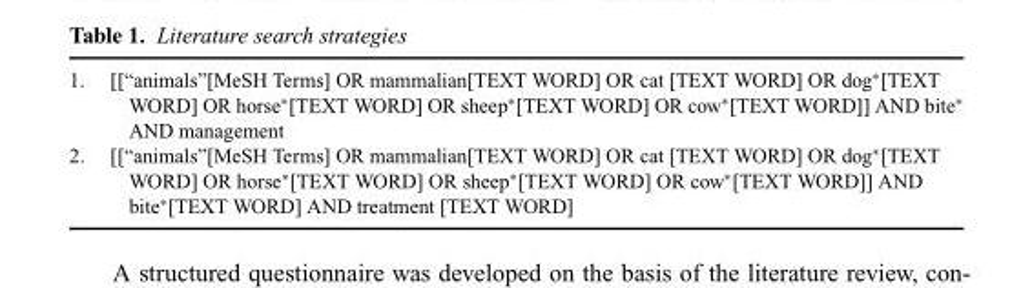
<table><tbody><tr><td>1.</td><td>[[“animals”[MeSH Terms] OR mammalian[TEXT WORD] OR cat [TEXT WORD] OR dog∗[TEXT WORD] OR horse∗[TEXT WORD] OR sheep∗[TEXT WORD] OR cow∗[TEXT WORD]] AND bite∗ AND management</td></tr><tr><td>2.</td><td>[[“animals”[MeSH Terms] OR mammalian[TEXT WORD] OR cat [TEXT WORD] OR dog∗[TEXT WORD] OR horse∗[TEXT WORD] OR sheep∗[TEXT WORD] OR cow∗[TEXT WORD]] AND bite∗[TEXT WORD] AND treatment [TEXT WORD]</td></tr></tbody></table>